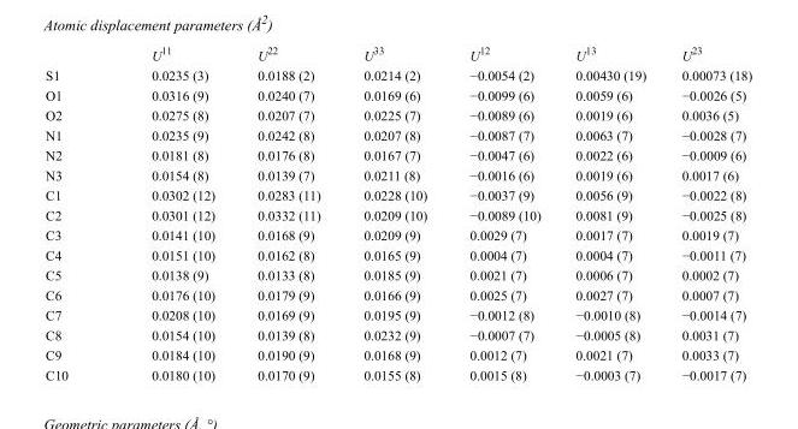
<table><thead><tr><td></td><td>U<sup>11</sup></td><td>U<sup>22</sup></td><td>U<sup>33</sup></td><td>U<sup>12</sup></td><td>U<sup>13</sup></td><td>U<sup>23</sup></td></tr></thead><tbody><tr><td>S1</td><td>0.0235 (3)</td><td>0.0188 (2)</td><td>0.0214 (2)</td><td>−0.0054 (2)</td><td>0.00430 (19)</td><td>0.00073 (18)</td></tr><tr><td>O1</td><td>0.0316 (9)</td><td>0.0240 (7)</td><td>0.0169 (6)</td><td>−0.0099 (6)</td><td>0.0059 (6)</td><td>−0.0026 (5)</td></tr><tr><td>O2</td><td>0.0275 (8)</td><td>0.0207 (7)</td><td>0.0225 (7)</td><td>−0.0089 (6)</td><td>0.0019 (6)</td><td>0.0036 (5)</td></tr><tr><td>N1</td><td>0.0235 (9)</td><td>0.0242 (8)</td><td>0.0207 (8)</td><td>−0.0087 (7)</td><td>0.0063 (7)</td><td>−0.0028 (7)</td></tr><tr><td>N2</td><td>0.0181 (8)</td><td>0.0176 (8)</td><td>0.0167 (7)</td><td>−0.0047 (6)</td><td>0.0022 (6)</td><td>−0.0009 (6)</td></tr><tr><td>N3</td><td>0.0154 (8)</td><td>0.0139 (7)</td><td>0.0211 (8)</td><td>−0.0016 (6)</td><td>0.0019 (6)</td><td>0.0017 (6)</td></tr><tr><td>C1</td><td>0.0302 (12)</td><td>0.0283 (11)</td><td>0.0228 (10)</td><td>−0.0037 (9)</td><td>0.0056 (9)</td><td>−0.0022 (8)</td></tr><tr><td>C2</td><td>0.0301 (12)</td><td>0.0332 (11)</td><td>0.0209 (10)</td><td>−0.0089 (10)</td><td>0.0081 (9)</td><td>−0.0025 (8)</td></tr><tr><td>C3</td><td>0.0141 (10)</td><td>0.0168 (9)</td><td>0.0209 (9)</td><td>0.0029 (7)</td><td>0.0017 (7)</td><td>0.0019 (7)</td></tr><tr><td>C4</td><td>0.0151 (10)</td><td>0.0162 (8)</td><td>0.0165 (9)</td><td>0.0004 (7)</td><td>0.0004 (7)</td><td>−0.0011 (7)</td></tr><tr><td>C5</td><td>0.0138 (9)</td><td>0.0133 (8)</td><td>0.0185 (9)</td><td>0.0021 (7)</td><td>0.0006 (7)</td><td>0.0002 (7)</td></tr><tr><td>C6</td><td>0.0176 (10)</td><td>0.0179 (9)</td><td>0.0166 (9)</td><td>0.0025 (7)</td><td>0.0027 (7)</td><td>0.0007 (7)</td></tr><tr><td>C7</td><td>0.0208 (10)</td><td>0.0169 (9)</td><td>0.0195 (9)</td><td>−0.0012 (8)</td><td>−0.0010 (8)</td><td>−0.0014 (7)</td></tr><tr><td>C8</td><td>0.0154 (10)</td><td>0.0139 (8)</td><td>0.0232 (9)</td><td>−0.0007 (7)</td><td>−0.0005 (8)</td><td>0.0031 (7)</td></tr><tr><td>C9</td><td>0.0184 (10)</td><td>0.0190 (9)</td><td>0.0168 (9)</td><td>0.0012 (7)</td><td>0.0021 (7)</td><td>0.0033 (7)</td></tr><tr><td>C10</td><td>0.0180 (10)</td><td>0.0170 (9)</td><td>0.0155 (8)</td><td>0.0015 (8)</td><td>−0.0003 (7)</td><td>−0.0017 (7)</td></tr></tbody></table>